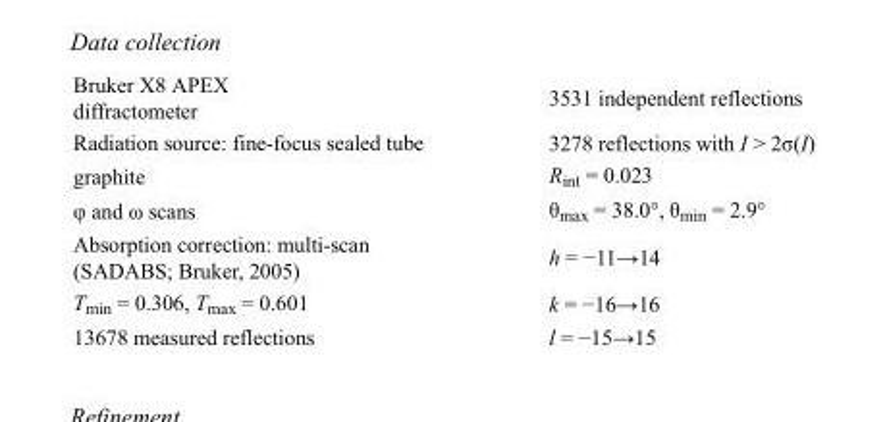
<table><tbody><tr><td>Bruker X8 APEX diffractometer</td><td>3531 independent reflections</td></tr><tr><td>Radiation source: fine-focus sealed tube</td><td>3278 reflections with I &gt; 2σ(I)</td></tr><tr><td>graphite</td><td>R<sub>int</sub> = 0.023</td></tr><tr><td>φ and ω scans</td><td>θ<sub>max</sub> = 38.0°, θ<sub>min</sub> = 2.9°</td></tr><tr><td>Absorption correction: multi-scan (SADABS; Bruker, 2005)</td><td>h = −11→14</td></tr><tr><td>T<sub>min</sub> = 0.306, T<sub>max</sub> = 0.601</td><td>k = −16→16</td></tr><tr><td>13678 measured reflections</td><td>l = −15→15</td></tr></tbody></table>